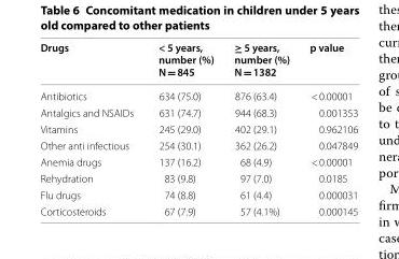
<table><thead><tr><td>Drugs</td><td>&lt; 5 years, number (%) N = 845</td><td>≥ 5 years, number (%) N = 1382</td><td>p value</td></tr></thead><tbody><tr><td>Antibiotics</td><td>634 (75.0)</td><td>876 (63.4)</td><td>&lt; 0.00001</td></tr><tr><td>Antalgics and NSAIDs</td><td>631 (74.7)</td><td>944 (68.3)</td><td>0.001353</td></tr><tr><td>Vitamins</td><td>245 (29.0)</td><td>402 (29.1)</td><td>0.962106</td></tr><tr><td>Other anti infectious</td><td>254 (30.1)</td><td>362 (26.2)</td><td>0.047849</td></tr><tr><td>Anemia drugs</td><td>137 (16.2)</td><td>68 (4.9)</td><td>&lt; 0.00001</td></tr><tr><td>Rehydration</td><td>83 (9.8)</td><td>97 (7.0)</td><td>0.0185</td></tr><tr><td>Flu drugs</td><td>74 (8.8)</td><td>61 (4.4)</td><td>0.000031</td></tr><tr><td>Corticosteroids</td><td>67 (7.9)</td><td>57 (4.1%)</td><td>0.000145</td></tr></tbody></table>